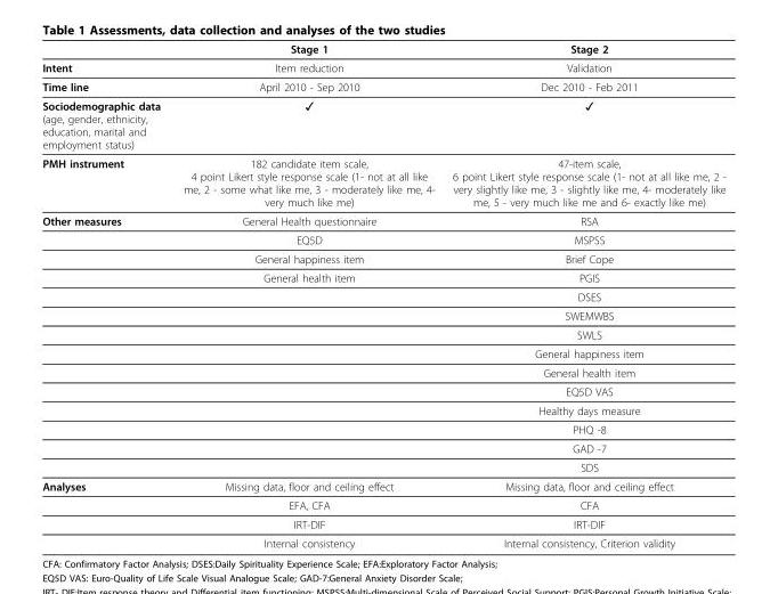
<table><thead><tr><td></td><td>Stage 1</td><td>Stage 2</td></tr></thead><tbody><tr><td>Intent</td><td>Item reduction</td><td>Validation</td></tr><tr><td>Time line</td><td>April 2010 - Sep 2010</td><td>Dec 2010 - Feb 2011</td></tr><tr><td>Sociodemographic data (age, gender, ethnicity, education, marital and employment status)</td><td>✓</td><td>✓</td></tr><tr><td>PMH instrument</td><td>182 candidate item scale, 4 point Likert style response scale (1- not at all like me, 2 - some what like me, 3 - moderately like me, 4- very much like me)</td><td>47-item scale, 6 point Likert style response scale (1- not at all like me, 2 - very slightly like me, 3 - slightly like me, 4- moderately like me, 5 - very much like me and 6- exactly like me)</td></tr><tr><td rowspan="14">Other measures</td><td>General Health questionnaire</td><td>RSA</td></tr><tr><td>EQ5D</td><td>MSPSS</td></tr><tr><td>General happiness item</td><td>Brief Cope</td></tr><tr><td>General health item</td><td>PGIS</td></tr><tr><td></td><td>DSES</td></tr><tr><td></td><td>SWEMWBS</td></tr><tr><td></td><td>SWLS</td></tr><tr><td></td><td>General happiness item</td></tr><tr><td></td><td>General health item</td></tr><tr><td></td><td>EQ5D VAS</td></tr><tr><td></td><td>Healthy days measure</td></tr><tr><td></td><td>PHQ -8</td></tr><tr><td></td><td>GAD -7</td></tr><tr><td></td><td>SDS</td></tr><tr><td rowspan="4">Analyses</td><td>Missing data, floor and ceiling effect</td><td>Missing data, floor and ceiling effect</td></tr><tr><td>EFA, CFA</td><td>CFA</td></tr><tr><td>IRT-DIF</td><td>IRT-DIF</td></tr><tr><td>Internal consistency</td><td>Internal consistency, Criterion validity</td></tr></tbody></table>